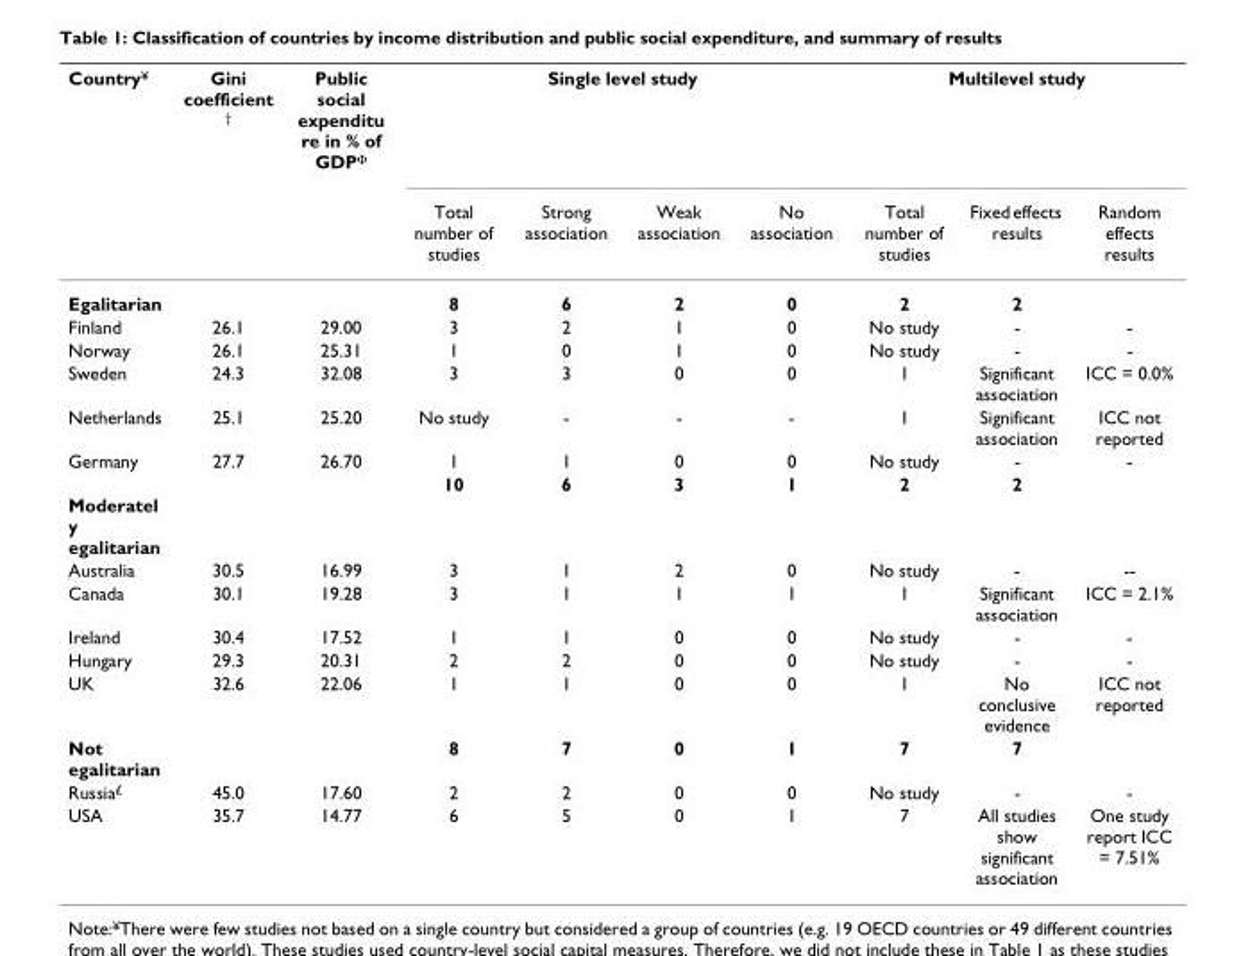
<table><thead><tr><td rowspan="2">Country<sup>¥</sup></td><td rowspan="2">Gini coefficient <sup>†</sup></td><td rowspan="2">Public social expenditu re in % of GDP<sup>Φ</sup></td><td colspan="4">Single level study</td><td colspan="3">Multilevel study</td></tr><tr><td>Total number of studies</td><td>Strong association</td><td>Weak association</td><td>No association</td><td>Total number of studies</td><td>Fixed effects results</td><td>Random effects results</td></tr></thead><tbody><tr><td>Egalitarian</td><td></td><td></td><td>8</td><td>6</td><td>2</td><td>0</td><td>2</td><td>2</td><td></td></tr><tr><td>Finland</td><td>26.1</td><td>29.00</td><td>3</td><td>2</td><td>1</td><td>0</td><td>No study</td><td>-</td><td>-</td></tr><tr><td>Norway</td><td>26.1</td><td>25.31</td><td>1</td><td>0</td><td>1</td><td>0</td><td>No study</td><td>-</td><td>-</td></tr><tr><td>Sweden</td><td>24.3</td><td>32.08</td><td>3</td><td>3</td><td>0</td><td>0</td><td>1</td><td>Significant association</td><td>ICC = 0.0%</td></tr><tr><td>Netherlands</td><td>25.1</td><td>25.20</td><td>No study</td><td>-</td><td>-</td><td>-</td><td>1</td><td>Significant association</td><td>ICC not reported</td></tr><tr><td>Germany</td><td>27.7</td><td>26.70</td><td>1</td><td>1</td><td>0</td><td>0</td><td>No study</td><td>-</td><td>-</td></tr><tr><td>Moderatel y egalitarian</td><td></td><td></td><td>10</td><td>6</td><td>3</td><td>1</td><td>2</td><td>2</td><td></td></tr><tr><td>Australia</td><td>30.5</td><td>16.99</td><td>3</td><td>1</td><td>2</td><td>0</td><td>No study</td><td>-</td><td>--</td></tr><tr><td>Canada</td><td>30.1</td><td>19.28</td><td>3</td><td>1</td><td>1</td><td>1</td><td>1</td><td>Significant association</td><td>ICC = 2.1%</td></tr><tr><td>Ireland</td><td>30.4</td><td>17.52</td><td>1</td><td>1</td><td>0</td><td>0</td><td>No study</td><td>-</td><td>-</td></tr><tr><td>Hungary</td><td>29.3</td><td>20.31</td><td>2</td><td>2</td><td>0</td><td>0</td><td>No study</td><td>-</td><td>-</td></tr><tr><td>UK</td><td>32.6</td><td>22.06</td><td>1</td><td>1</td><td>0</td><td>0</td><td>1</td><td>No conclusive evidence</td><td>ICC not reported</td></tr><tr><td>Not egalitarian</td><td></td><td></td><td>8</td><td>7</td><td>0</td><td>1</td><td>7</td><td>7</td><td></td></tr><tr><td>Russia<sup>£</sup></td><td>45.0</td><td>17.60</td><td>2</td><td>2</td><td>0</td><td>0</td><td>No study</td><td>-</td><td>-</td></tr><tr><td>USA</td><td>35.7</td><td>14.77</td><td>6</td><td>5</td><td>0</td><td>1</td><td>7</td><td>All studies show significant association</td><td>One study report ICC = 7.51%</td></tr></tbody></table>